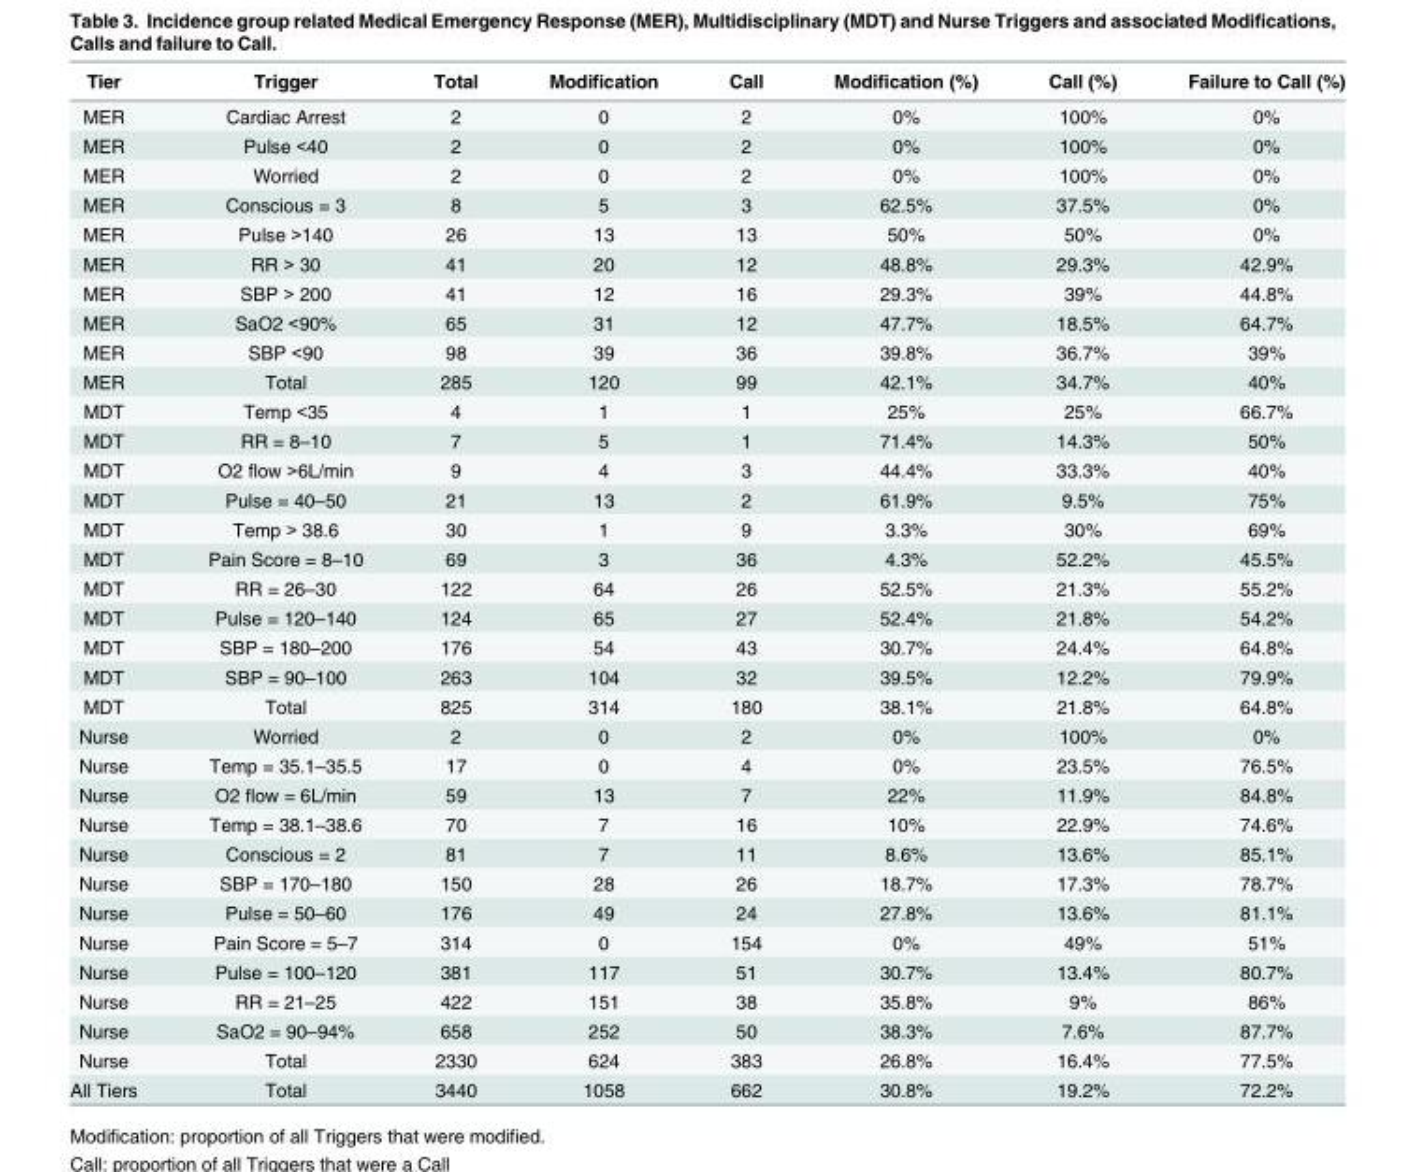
<table><thead><tr><td>Tier</td><td>Trigger</td><td>Total</td><td>Modification</td><td>Call</td><td>Modification (%)</td><td>Call (%)</td><td>Failure to Call (%)</td></tr></thead><tbody><tr><td>MER</td><td>Cardiac Arrest</td><td>2</td><td>0</td><td>2</td><td>0%</td><td>100%</td><td>0%</td></tr><tr><td>MER</td><td>Pulse &lt;40</td><td>2</td><td>0</td><td>2</td><td>0%</td><td>100%</td><td>0%</td></tr><tr><td>MER</td><td>Worried</td><td>2</td><td>0</td><td>2</td><td>0%</td><td>100%</td><td>0%</td></tr><tr><td>MER</td><td>Conscious = 3</td><td>8</td><td>5</td><td>3</td><td>62.5%</td><td>37.5%</td><td>0%</td></tr><tr><td>MER</td><td>Pulse &gt;140</td><td>26</td><td>13</td><td>13</td><td>50%</td><td>50%</td><td>0%</td></tr><tr><td>MER</td><td>RR &gt; 30</td><td>41</td><td>20</td><td>12</td><td>48.8%</td><td>29.3%</td><td>42.9%</td></tr><tr><td>MER</td><td>SBP &gt; 200</td><td>41</td><td>12</td><td>16</td><td>29.3%</td><td>39%</td><td>44.8%</td></tr><tr><td>MER</td><td>SaO2 &lt;90%</td><td>65</td><td>31</td><td>12</td><td>47.7%</td><td>18.5%</td><td>64.7%</td></tr><tr><td>MER</td><td>SBP &lt;90</td><td>98</td><td>39</td><td>36</td><td>39.8%</td><td>36.7%</td><td>39%</td></tr><tr><td>MER</td><td>Total</td><td>285</td><td>120</td><td>99</td><td>42.1%</td><td>34.7%</td><td>40%</td></tr><tr><td>MDT</td><td>Temp &lt;35</td><td>4</td><td>1</td><td>1</td><td>25%</td><td>25%</td><td>66.7%</td></tr><tr><td>MDT</td><td>RR = 8–10</td><td>7</td><td>5</td><td>1</td><td>71.4%</td><td>14.3%</td><td>50%</td></tr><tr><td>MDT</td><td>O2 flow &gt;6L/min</td><td>9</td><td>4</td><td>3</td><td>44.4%</td><td>33.3%</td><td>40%</td></tr><tr><td>MDT</td><td>Pulse = 40–50</td><td>21</td><td>13</td><td>2</td><td>61.9%</td><td>9.5%</td><td>75%</td></tr><tr><td>MDT</td><td>Temp &gt; 38.6</td><td>30</td><td>1</td><td>9</td><td>3.3%</td><td>30%</td><td>69%</td></tr><tr><td>MDT</td><td>Pain Score = 8–10</td><td>69</td><td>3</td><td>36</td><td>4.3%</td><td>52.2%</td><td>45.5%</td></tr><tr><td>MDT</td><td>RR = 26–30</td><td>122</td><td>64</td><td>26</td><td>52.5%</td><td>21.3%</td><td>55.2%</td></tr><tr><td>MDT</td><td>Pulse = 120–140</td><td>124</td><td>65</td><td>27</td><td>52.4%</td><td>21.8%</td><td>54.2%</td></tr><tr><td>MDT</td><td>SBP = 180–200</td><td>176</td><td>54</td><td>43</td><td>30.7%</td><td>24.4%</td><td>64.8%</td></tr><tr><td>MDT</td><td>SBP = 90–100</td><td>263</td><td>104</td><td>32</td><td>39.5%</td><td>12.2%</td><td>79.9%</td></tr><tr><td>MDT</td><td>Total</td><td>825</td><td>314</td><td>180</td><td>38.1%</td><td>21.8%</td><td>64.8%</td></tr><tr><td>Nurse</td><td>Worried</td><td>2</td><td>0</td><td>2</td><td>0%</td><td>100%</td><td>0%</td></tr><tr><td>Nurse</td><td>Temp = 35.1–35.5</td><td>17</td><td>0</td><td>4</td><td>0%</td><td>23.5%</td><td>76.5%</td></tr><tr><td>Nurse</td><td>O2 flow = 6L/min</td><td>59</td><td>13</td><td>7</td><td>22%</td><td>11.9%</td><td>84.8%</td></tr><tr><td>Nurse</td><td>Temp = 38.1–38.6</td><td>70</td><td>7</td><td>16</td><td>10%</td><td>22.9%</td><td>74.6%</td></tr><tr><td>Nurse</td><td>Conscious = 2</td><td>81</td><td>7</td><td>11</td><td>8.6%</td><td>13.6%</td><td>85.1%</td></tr><tr><td>Nurse</td><td>SBP = 170–180</td><td>150</td><td>28</td><td>26</td><td>18.7%</td><td>17.3%</td><td>78.7%</td></tr><tr><td>Nurse</td><td>Pulse = 50–60</td><td>176</td><td>49</td><td>24</td><td>27.8%</td><td>13.6%</td><td>81.1%</td></tr><tr><td>Nurse</td><td>Pain Score = 5–7</td><td>314</td><td>0</td><td>154</td><td>0%</td><td>49%</td><td>51%</td></tr><tr><td>Nurse</td><td>Pulse = 100–120</td><td>381</td><td>117</td><td>51</td><td>30.7%</td><td>13.4%</td><td>80.7%</td></tr><tr><td>Nurse</td><td>RR = 21–25</td><td>422</td><td>151</td><td>38</td><td>35.8%</td><td>9%</td><td>86%</td></tr><tr><td>Nurse</td><td>SaO2 = 90–94%</td><td>658</td><td>252</td><td>50</td><td>38.3%</td><td>7.6%</td><td>87.7%</td></tr><tr><td>Nurse</td><td>Total</td><td>2330</td><td>624</td><td>383</td><td>26.8%</td><td>16.4%</td><td>77.5%</td></tr><tr><td>All Tiers</td><td>Total</td><td>3440</td><td>1058</td><td>662</td><td>30.8%</td><td>19.2%</td><td>72.2%</td></tr></tbody></table>